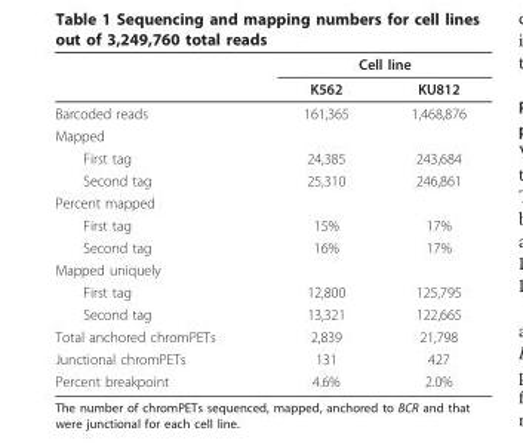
<table><thead><tr><td rowspan="2"></td><td colspan="2">Cell line</td></tr><tr><td>K562</td><td>KU812</td></tr></thead><tbody><tr><td>Barcoded reads</td><td>161,365</td><td>1,468,876</td></tr><tr><td colspan="3">Mapped</td></tr><tr><td>First tag</td><td>24,385</td><td>243,684</td></tr><tr><td>Second tag</td><td>25,310</td><td>246,861</td></tr><tr><td colspan="3">Percent mapped</td></tr><tr><td>First tag</td><td>15%</td><td>17%</td></tr><tr><td>Second tag</td><td>16%</td><td>17%</td></tr><tr><td colspan="3">Mapped uniquely</td></tr><tr><td>First tag</td><td>12,800</td><td>125,795</td></tr><tr><td>Second tag</td><td>13,321</td><td>122,665</td></tr><tr><td>Total anchored chromPETs</td><td>2,839</td><td>21,798</td></tr><tr><td>Junctional chromPETs</td><td>131</td><td>427</td></tr><tr><td>Percent breakpoint</td><td>4.6%</td><td>2.0%</td></tr></tbody></table>